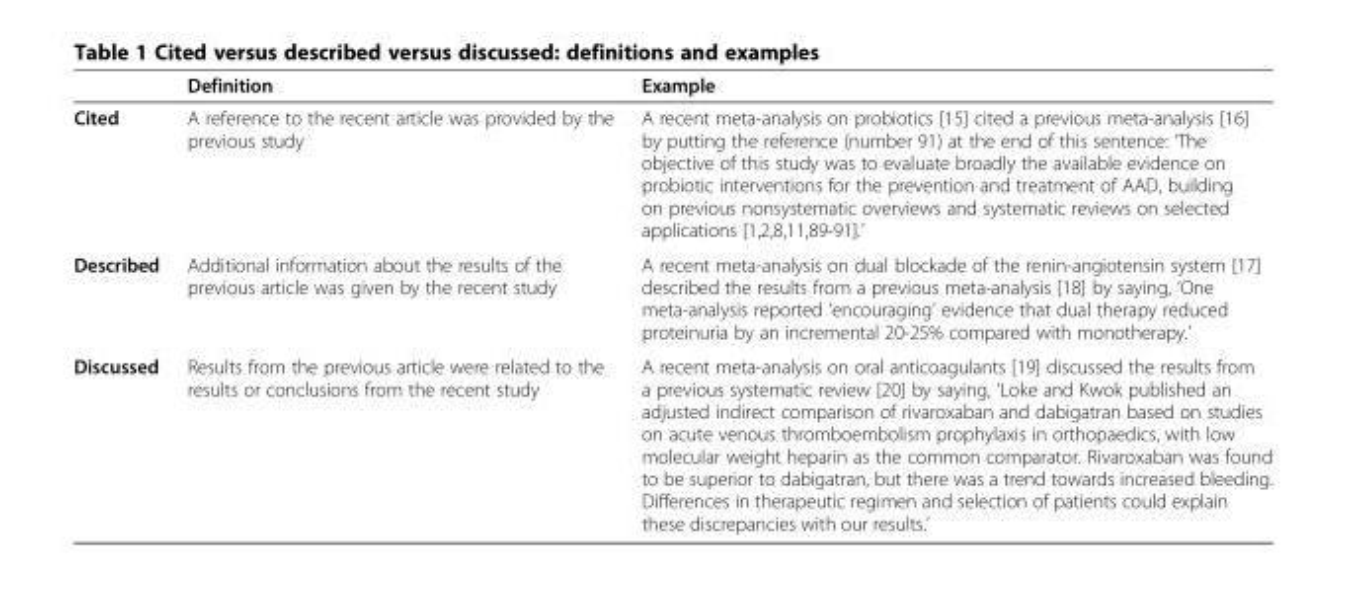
<table><thead><tr><td></td><td>Definition</td><td>Example</td></tr></thead><tbody><tr><td>Cited</td><td>A reference to the recent article was provided by the previous study</td><td>A recent meta-analysis on probiotics [15] cited a previous meta-analysis [16] by putting the reference (number 91) at the end of this sentence: ‘The objective of this study was to evaluate broadly the available evidence on probiotic interventions for the prevention and treatment of AAD, building on previous nonsystematic overviews and systematic reviews on selected applications [1,2,8,11,89-91].’</td></tr><tr><td>Described</td><td>Additional information about the results of the previous article was given by the recent study</td><td>A recent meta-analysis on dual blockade of the renin-angiotensin system [17] described the results from a previous meta-analysis [18] by saying, ‘One meta-analysis reported ‘encouraging’ evidence that dual therapy reduced proteinuria by an incremental 20-25% compared with monotherapy.’</td></tr><tr><td>Discussed</td><td>Results from the previous article were related to the results or conclusions from the recent study</td><td>A recent meta-analysis on oral anticoagulants [19] discussed the results from a previous systematic review [20] by saying, ‘Loke and Kwok published an adjusted indirect comparison of rivaroxaban and dabigatran based on studies on acute venous thromboembolism prophylaxis in orthopaedics, with low molecular weight heparin as the common comparator. Rivaroxaban was found to be superior to dabigatran, but there was a trend towards increased bleeding. Differences in therapeutic regimen and selection of patients could explain these discrepancies with our results.’</td></tr></tbody></table>